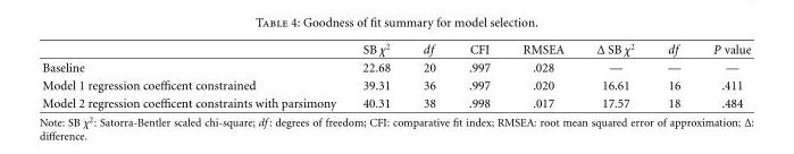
<table><thead><tr><td></td><td>SB χ<sup>2</sup></td><td>df</td><td>CFI</td><td>RMSEA</td><td>Δ SB χ<sup>2</sup></td><td>df</td><td>P value</td></tr></thead><tbody><tr><td>Baseline</td><td>22.68</td><td>20</td><td>.997</td><td>.028</td><td>—</td><td>—</td><td>—</td></tr><tr><td>Model 1 regression coefficent constrained</td><td>39.31</td><td>36</td><td>.997</td><td>.020</td><td>16.61</td><td>16</td><td>.411</td></tr><tr><td>Model 2 regression coefficent constraints with parsimony</td><td>40.31</td><td>38</td><td>.998</td><td>.017</td><td>17.57</td><td>18</td><td>.484</td></tr></tbody></table>